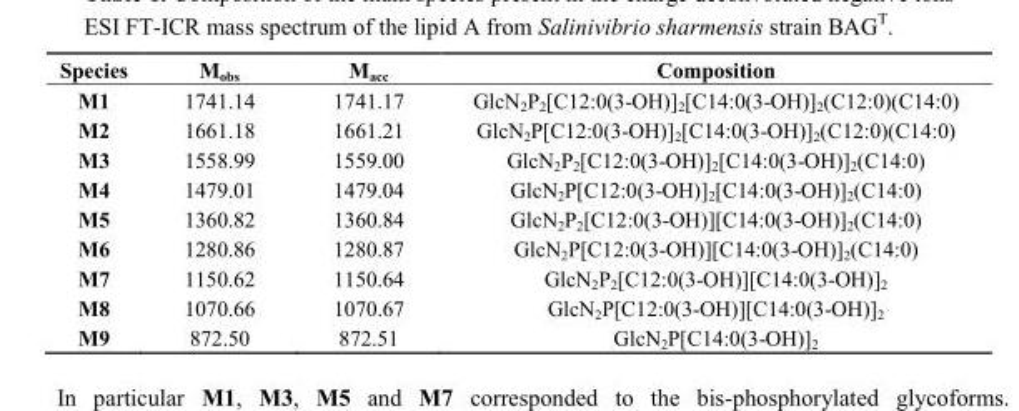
<table><thead><tr><td>Species</td><td>M<sub>obs</sub></td><td>M<sub>acc</sub></td><td>Composition</td></tr></thead><tbody><tr><td>M1</td><td>1741.14</td><td>1741.17</td><td>GlcN<sub>2</sub>P<sub>2</sub>[C12:0(3-OH)]<sub>2</sub>[C14:0(3-OH)]<sub>2</sub>(C12:0)(C14:0)</td></tr><tr><td>M2</td><td>1661.18</td><td>1661.21</td><td>GlcN<sub>2</sub>P[C12:0(3-OH)]<sub>2</sub>[C14:0(3-OH)]<sub>2</sub>(C12:0)(C14:0)</td></tr><tr><td>M3</td><td>1558.99</td><td>1559.00</td><td>GlcN<sub>2</sub>P<sub>2</sub>[C12:0(3-OH)]<sub>2</sub>[C14:0(3-OH)]<sub>2</sub>(C14:0)</td></tr><tr><td>M4</td><td>1479.01</td><td>1479.04</td><td>GlcN<sub>2</sub>P[C12:0(3-OH)]<sub>2</sub>[C14:0(3-OH)]<sub>2</sub>(C14:0)</td></tr><tr><td>M5</td><td>1360.82</td><td>1360.84</td><td>GlcN<sub>2</sub>P<sub>2</sub>[C12:0(3-OH)][C14:0(3-OH)]<sub>2</sub>(C14:0)</td></tr><tr><td>M6</td><td>1280.86</td><td>1280.87</td><td>GlcN<sub>2</sub>P[C12:0(3-OH)][C14:0(3-OH)]<sub>2</sub>(C14:0)</td></tr><tr><td>M7</td><td>1150.62</td><td>1150.64</td><td>GlcN<sub>2</sub>P<sub>2</sub>[C12:0(3-OH)][C14:0(3-OH)]<sub>2</sub></td></tr><tr><td>M8</td><td>1070.66</td><td>1070.67</td><td>GlcN<sub>2</sub>P[C12:0(3-OH)][C14:0(3-OH)]<sub>2</sub></td></tr><tr><td>M9</td><td>872.50</td><td>872.51</td><td>GlcN<sub>2</sub>P[C14:0(3-OH)]<sub>2</sub></td></tr></tbody></table>